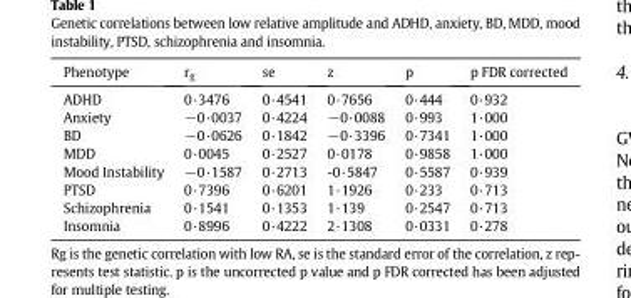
<table><thead><tr><td>Phenotype</td><td>r<sub>g</sub></td><td>se</td><td>z</td><td>p</td><td>p FDR corrected</td></tr></thead><tbody><tr><td>ADHD</td><td>0·3476</td><td>0·4541</td><td>0·7656</td><td>0·444</td><td>0·932</td></tr><tr><td>Anxiety</td><td>−0·0037</td><td>0·4224</td><td>−0·0088</td><td>0·993</td><td>1·000</td></tr><tr><td>BD</td><td>−0·0626</td><td>0·1842</td><td>−0·3396</td><td>0·7341</td><td>1·000</td></tr><tr><td>MDD</td><td>0·0045</td><td>0·2527</td><td>0·0178</td><td>0·9858</td><td>1·000</td></tr><tr><td>Mood Instability</td><td>−0·1587</td><td>0·2713</td><td>-0·5847</td><td>0·5587</td><td>0·939</td></tr><tr><td>PTSD</td><td>0·7396</td><td>0·6201</td><td>1·1926</td><td>0·233</td><td>0·713</td></tr><tr><td>Schizophrenia</td><td>0·1541</td><td>0·1353</td><td>1·139</td><td>0·2547</td><td>0·713</td></tr><tr><td>Insomnia</td><td>0·8996</td><td>0·4222</td><td>2·1308</td><td>0·0331</td><td>0·278</td></tr></tbody></table>